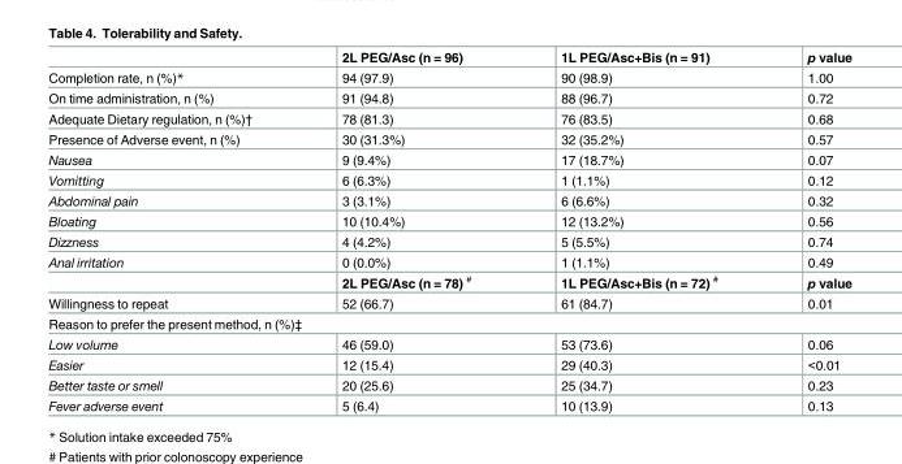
<table><thead><tr><td></td><td>2L PEG/Asc (n = 96)</td><td>1L PEG/Asc+Bis (n = 91)</td><td>p value</td></tr></thead><tbody><tr><td>Completion rate, n (%)*</td><td>94 (97.9)</td><td>90 (98.9)</td><td>1.00</td></tr><tr><td>On time administration, n (%)</td><td>91 (94.8)</td><td>88 (96.7)</td><td>0.72</td></tr><tr><td>Adequate Dietary regulation, n (%)†</td><td>78 (81.3)</td><td>76 (83.5)</td><td>0.68</td></tr><tr><td>Presence of Adverse event, n (%)</td><td>30 (31.3%)</td><td>32 (35.2%)</td><td>0.57</td></tr><tr><td>Nausea</td><td>9 (9.4%)</td><td>17 (18.7%)</td><td>0.07</td></tr><tr><td>Vomitting</td><td>6 (6.3%)</td><td>1 (1.1%)</td><td>0.12</td></tr><tr><td>Abdominal pain</td><td>3 (3.1%)</td><td>6 (6.6%)</td><td>0.32</td></tr><tr><td>Bloating</td><td>10 (10.4%)</td><td>12 (13.2%)</td><td>0.56</td></tr><tr><td>Dizzness</td><td>4 (4.2%)</td><td>5 (5.5%)</td><td>0.74</td></tr><tr><td rowspan="2">Anal irritation</td><td>0 (0.0%)</td><td>1 (1.1%)</td><td>0.49</td></tr><tr><td>2L PEG/Asc (n = 78) <sup>#</sup></td><td>1L PEG/Asc+Bis (n = 72) <sup>#</sup></td><td>p value</td></tr><tr><td>Willingness to repeat</td><td>52 (66.7)</td><td>61 (84.7)</td><td>0.01</td></tr><tr><td colspan="4">Reason to prefer the present method, n (%)‡</td></tr><tr><td>Low volume</td><td>46 (59.0)</td><td>53 (73.6)</td><td>0.06</td></tr><tr><td>Easier</td><td>12 (15.4)</td><td>29 (40.3)</td><td>&lt;0.01</td></tr><tr><td>Better taste or smell</td><td>20 (25.6)</td><td>25 (34.7)</td><td>0.23</td></tr><tr><td>Fever adverse event</td><td>5 (6.4)</td><td>10 (13.9)</td><td>0.13</td></tr></tbody></table>